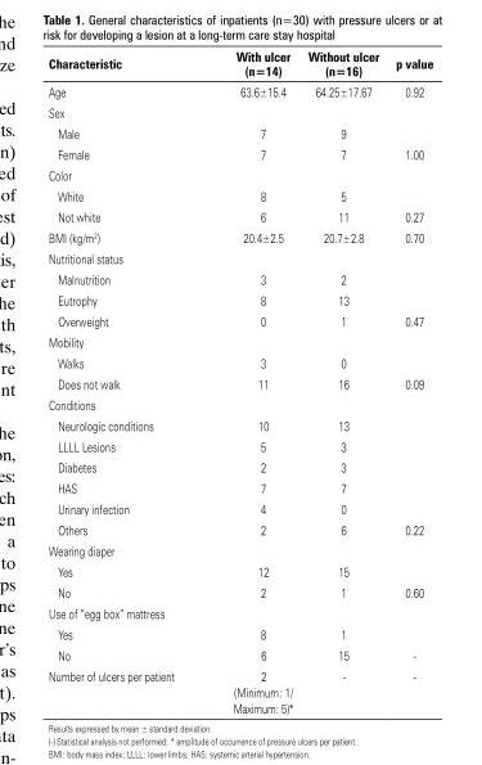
<table><thead><tr><td>Characteristic</td><td>With ulcer (n=14)</td><td>Without ulcer (n=16)</td><td>p value</td></tr></thead><tbody><tr><td>Age</td><td>63.6±15.4</td><td>64.25±17.67</td><td>0.92</td></tr><tr><td colspan="4">Sex</td></tr><tr><td>Male</td><td>7</td><td>9</td><td></td></tr><tr><td>Female</td><td>7</td><td>7</td><td>1.00</td></tr><tr><td colspan="4">Color</td></tr><tr><td>White</td><td>8</td><td>5</td><td></td></tr><tr><td>Not white</td><td>6</td><td>11</td><td>0.27</td></tr><tr><td>BMI (kg/m<sup>2</sup>)</td><td>20.4±2.5</td><td>20.7±2.8</td><td>0.70</td></tr><tr><td colspan="4">Nutritional status</td></tr><tr><td>Malnutrition</td><td>3</td><td>2</td><td></td></tr><tr><td>Eutrophy</td><td>8</td><td>13</td><td></td></tr><tr><td>Overweight</td><td>0</td><td>1</td><td>0.47</td></tr><tr><td colspan="4">Mobility</td></tr><tr><td>Walks</td><td>3</td><td>0</td><td></td></tr><tr><td>Does not walk</td><td>11</td><td>16</td><td>0.09</td></tr><tr><td colspan="4">Conditions</td></tr><tr><td>Neurologic conditions</td><td>10</td><td>13</td><td></td></tr><tr><td>LLLL Lesions</td><td>5</td><td>3</td><td></td></tr><tr><td>Diabetes</td><td>2</td><td>3</td><td></td></tr><tr><td>HAS</td><td>7</td><td>7</td><td></td></tr><tr><td>Urinary infection</td><td>4</td><td>0</td><td></td></tr><tr><td>Others</td><td>2</td><td>6</td><td>0.22</td></tr><tr><td colspan="4">Wearing diaper</td></tr><tr><td>Yes</td><td>12</td><td>15</td><td></td></tr><tr><td>No</td><td>2</td><td>1</td><td>0.60</td></tr><tr><td colspan="4">Use of “egg box” mattress</td></tr><tr><td>Yes</td><td>8</td><td>1</td><td></td></tr><tr><td>No</td><td>6</td><td>15</td><td>-</td></tr><tr><td>Number of ulcers per patient</td><td>2 (Minimum: 1/ Maximum: 5)*</td><td>-</td><td>-</td></tr></tbody></table>